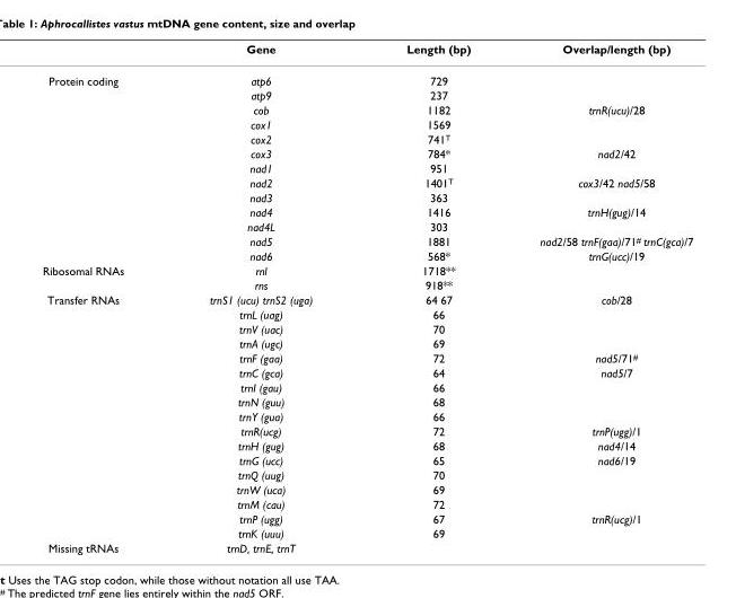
<table><thead><tr><td></td><td>Gene</td><td>Length (bp)</td><td>Overlap/length (bp)</td></tr></thead><tbody><tr><td rowspan="13">Protein coding</td><td>atp6</td><td>729</td><td></td></tr><tr><td>atp9</td><td>237</td><td></td></tr><tr><td>cob</td><td>1182</td><td>trnR(ucu)/28</td></tr><tr><td>cox1</td><td>1569</td><td></td></tr><tr><td>cox2</td><td>741<sup>T</sup></td><td></td></tr><tr><td>cox3</td><td>784*</td><td>nad2/42</td></tr><tr><td>nad1</td><td>951</td><td></td></tr><tr><td>nad2</td><td>1401<sup>T</sup></td><td>cox3/42 nad5/58</td></tr><tr><td>nad3</td><td>363</td><td></td></tr><tr><td>nad4</td><td>1416</td><td>trnH(gug)/14</td></tr><tr><td>nad4L</td><td>303</td><td></td></tr><tr><td>nad5</td><td>1881</td><td>nad2/58 trnF(gaa)/71<sup>#</sup> trnC(gca)/7</td></tr><tr><td>nad6</td><td>568*</td><td>trnG(ucc)/19</td></tr><tr><td rowspan="2">Ribosomal RNAs</td><td>rnl</td><td>1718**</td><td></td></tr><tr><td>rns</td><td>918**</td><td></td></tr><tr><td rowspan="17">Transfer RNAs</td><td>trnS1 (ucu) trnS2 (uga)</td><td>64 67</td><td>cob/28</td></tr><tr><td>trnL (uag)</td><td>66</td><td></td></tr><tr><td>trnV (uac)</td><td>70</td><td></td></tr><tr><td>trnA (ugc)</td><td>69</td><td></td></tr><tr><td>trnF (gaa)</td><td>72</td><td>nad5/71<sup>#</sup></td></tr><tr><td>trnC (gca)</td><td>64</td><td>nad5/7</td></tr><tr><td>trnI (gau)</td><td>66</td><td></td></tr><tr><td>trnN (guu)</td><td>68</td><td></td></tr><tr><td>trnY (gua)</td><td>66</td><td></td></tr><tr><td>trnR(ucg)</td><td>72</td><td>trnP(ugg)/1</td></tr><tr><td>trnH (gug)</td><td>68</td><td>nad4/14</td></tr><tr><td>trnG (ucc)</td><td>65</td><td>nad6/19</td></tr><tr><td>trnQ (uug)</td><td>70</td><td></td></tr><tr><td>trnW (uca)</td><td>69</td><td></td></tr><tr><td>trnM (cau)</td><td>72</td><td></td></tr><tr><td>trnP (ugg)</td><td>67</td><td>trnR(ucg)/1</td></tr><tr><td>trnK (uuu)</td><td>69</td><td></td></tr><tr><td>Missing tRNAs</td><td>trnD, trnE, trnT</td><td></td><td></td></tr></tbody></table>